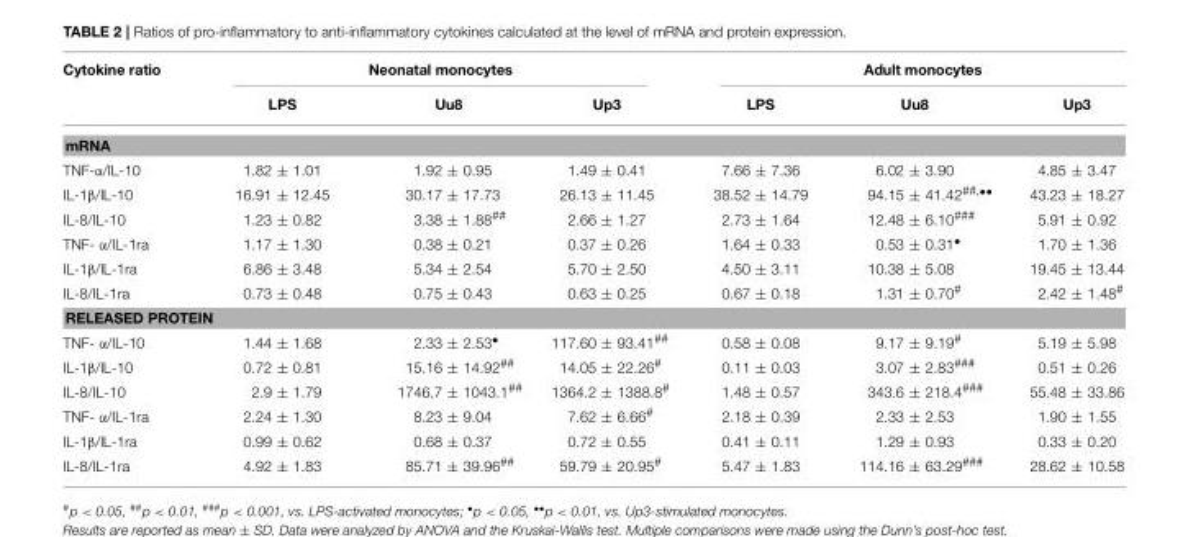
<table><thead><tr><td rowspan="2">Cytokine ratio</td><td colspan="3">Neonatal monocytes</td><td colspan="3">Adult monocytes</td></tr><tr><td>LPS</td><td>Uu8</td><td>Up3</td><td>LPS</td><td>Uu8</td><td>Up3</td></tr></thead><tbody><tr><td colspan="7">mRNA</td></tr><tr><td>TNF-α/IL-10</td><td>1.82 ± 1.01</td><td>1.92 ± 0.95</td><td>1.49 ± 0.41</td><td>7.66 ± 7.36</td><td>6.02 ± 3.90</td><td>4.85 ± 3.47</td></tr><tr><td>IL-1β/IL-10</td><td>16.91 ± 12.45</td><td>30.17 ± 17.73</td><td>26.13 ± 11.45</td><td>38.52 ± 14.79</td><td>94.15 ± 41.42<sup>##,••</sup></td><td>43.23 ± 18.27</td></tr><tr><td>IL-8/IL-10</td><td>1.23 ± 0.82</td><td>3.38 ± 1.88<sup>##</sup></td><td>2.66 ± 1.27</td><td>2.73 ± 1.64</td><td>12.48 ± 6.10<sup>###</sup></td><td>5.91 ± 0.92</td></tr><tr><td>TNF- α/IL-1ra</td><td>1.17 ± 1.30</td><td>0.38 ± 0.21</td><td>0.37 ± 0.26</td><td>1.64 ± 0.33</td><td>0.53 ± 0.31<sup>•</sup></td><td>1.70 ± 1.36</td></tr><tr><td>IL-1β/IL-1ra</td><td>6.86 ± 3.48</td><td>5.34 ± 2.54</td><td>5.70 ± 2.50</td><td>4.50 ± 3.11</td><td>10.38 ± 5.08</td><td>19.45 ± 13.44</td></tr><tr><td>IL-8/IL-1ra</td><td>0.73 ± 0.48</td><td>0.75 ± 0.43</td><td>0.63 ± 0.25</td><td>0.67 ± 0.18</td><td>1.31 ± 0.70<sup>#</sup></td><td>2.42 ± 1.48<sup>#</sup></td></tr><tr><td colspan="7">RELEASED PROTEIN</td></tr><tr><td>TNF- α/IL-10</td><td>1.44 ± 1.68</td><td>2.33 ± 2.53<sup>•</sup></td><td>117.60 ± 93.41<sup>##</sup></td><td>0.58 ± 0.08</td><td>9.17 ± 9.19<sup>#</sup></td><td>5.19 ± 5.98</td></tr><tr><td>IL-1β/IL-10</td><td>0.72 ± 0.81</td><td>15.16 ± 14.92<sup>##</sup></td><td>14.05 ± 22.26<sup>#</sup></td><td>0.11 ± 0.03</td><td>3.07 ± 2.83<sup>###</sup></td><td>0.51 ± 0.26</td></tr><tr><td>IL-8/IL-10</td><td>2.9 ± 1.79</td><td>1746.7 ± 1043.1<sup>##</sup></td><td>1364.2 ± 1388.8<sup>#</sup></td><td>1.48 ± 0.57</td><td>343.6 ± 218.4<sup>###</sup></td><td>55.48 ± 33.86</td></tr><tr><td>TNF- α/IL-1ra</td><td>2.24 ± 1.30</td><td>8.23 ± 9.04</td><td>7.62 ± 6.66<sup>#</sup></td><td>2.18 ± 0.39</td><td>2.33 ± 2.53</td><td>1.90 ± 1.55</td></tr><tr><td>IL-1β/IL-1ra</td><td>0.99 ± 0.62</td><td>0.68 ± 0.37</td><td>0.72 ± 0.55</td><td>0.41 ± 0.11</td><td>1.29 ± 0.93</td><td>0.33 ± 0.20</td></tr><tr><td>IL-8/IL-1ra</td><td>4.92 ± 1.83</td><td>85.71 ± 39.96<sup>##</sup></td><td>59.79 ± 20.95<sup>#</sup></td><td>5.47 ± 1.83</td><td>114.16 ± 63.29<sup>###</sup></td><td>28.62 ± 10.58</td></tr></tbody></table>